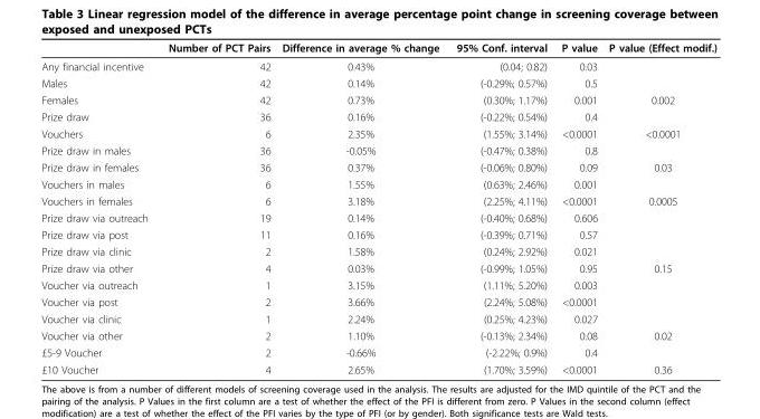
<table><thead><tr><td></td><td>Number of PCT Pairs</td><td>Difference in average % change</td><td>95% Conf. interval</td><td>P value</td><td>P value (Effect modif.)</td></tr></thead><tbody><tr><td>Any financial incentive</td><td>42</td><td>0.43%</td><td>(0.04; 0.82)</td><td>0.03</td><td></td></tr><tr><td>Males</td><td>42</td><td>0.14%</td><td>(-0.29%; 0.57%)</td><td>0.5</td><td></td></tr><tr><td>Females</td><td>42</td><td>0.73%</td><td>(0.30%; 1.17%)</td><td>0.001</td><td>0.002</td></tr><tr><td>Prize draw</td><td>36</td><td>0.16%</td><td>(-0.22%; 0.54%)</td><td>0.4</td><td></td></tr><tr><td>Vouchers</td><td>6</td><td>2.35%</td><td>(1.55%; 3.14%)</td><td>&lt;0.0001</td><td>&lt;0.0001</td></tr><tr><td>Prize draw in males</td><td>36</td><td>-0.05%</td><td>(-0.47%; 0.38%)</td><td>0.8</td><td></td></tr><tr><td>Prize draw in females</td><td>36</td><td>0.37%</td><td>(-0.06%; 0.80%)</td><td>0.09</td><td>0.03</td></tr><tr><td>Vouchers in males</td><td>6</td><td>1.55%</td><td>(0.63%; 2.46%)</td><td>0.001</td><td></td></tr><tr><td>Vouchers in females</td><td>6</td><td>3.18%</td><td>(2.25%; 4.11%)</td><td>&lt;0.0001</td><td>0.0005</td></tr><tr><td>Prize draw via outreach</td><td>19</td><td>0.14%</td><td>(-0.40%; 0.68%)</td><td>0.606</td><td></td></tr><tr><td>Prize draw via post</td><td>11</td><td>0.16%</td><td>(-0.39%; 0.71%)</td><td>0.57</td><td></td></tr><tr><td>Prize draw via clinic</td><td>2</td><td>1.58%</td><td>(0.24%; 2.92%)</td><td>0.021</td><td></td></tr><tr><td>Prize draw via other</td><td>4</td><td>0.03%</td><td>(-0.99%; 1.05%)</td><td>0.95</td><td>0.15</td></tr><tr><td>Voucher via outreach</td><td>1</td><td>3.15%</td><td>(1.11%; 5.20%)</td><td>0.003</td><td></td></tr><tr><td>Voucher via post</td><td>2</td><td>3.66%</td><td>(2.24%; 5.08%)</td><td>&lt;0.0001</td><td></td></tr><tr><td>Voucher via clinic</td><td>1</td><td>2.24%</td><td>(0.25%; 4.23%)</td><td>0.027</td><td></td></tr><tr><td>Voucher via other</td><td>2</td><td>1.10%</td><td>(-0.13%; 2.34%)</td><td>0.08</td><td>0.02</td></tr><tr><td>£5-9 Voucher</td><td>2</td><td>-0.66%</td><td>(-2.22%; 0.9%)</td><td>0.4</td><td></td></tr><tr><td>£10 Voucher</td><td>4</td><td>2.65%</td><td>(1.70%; 3.59%)</td><td>&lt;0.0001</td><td>0.36</td></tr></tbody></table>